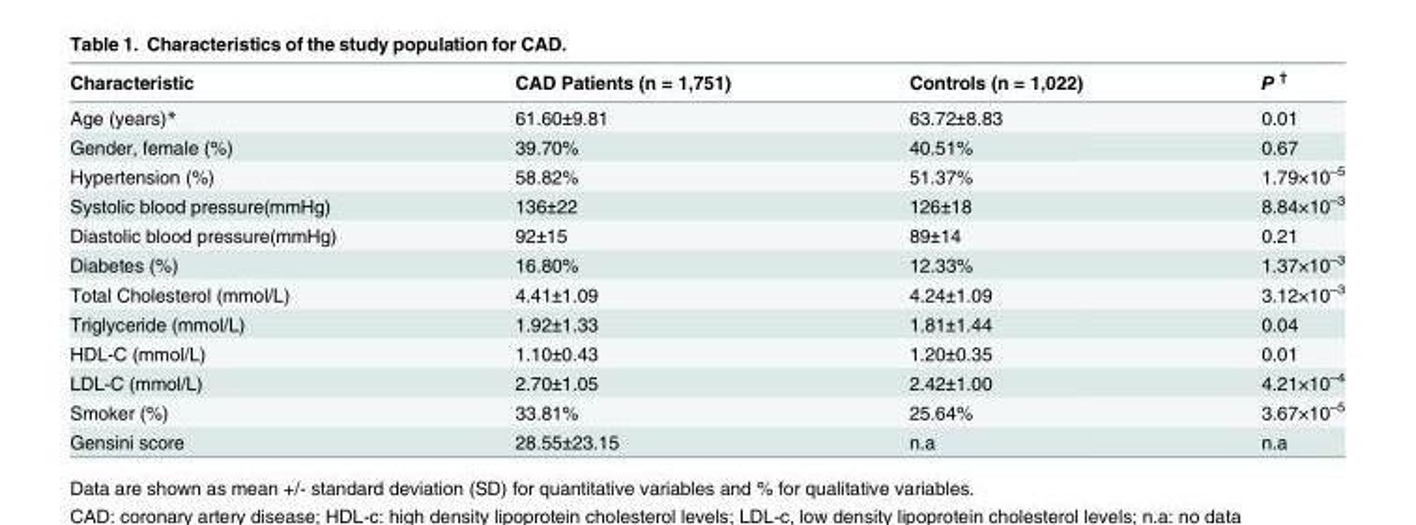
<table><thead><tr><td>Characteristic</td><td>CAD Patients (n = 1,751)</td><td>Controls (n = 1,022)</td><td>P <sup>†</sup></td></tr></thead><tbody><tr><td>Age (years)*</td><td>61.60±9.81</td><td>63.72±8.83</td><td>0.01</td></tr><tr><td>Gender, female (%)</td><td>39.70%</td><td>40.51%</td><td>0.67</td></tr><tr><td>Hypertension (%)</td><td>58.82%</td><td>51.37%</td><td>1.79×10<sup>–5</sup></td></tr><tr><td>Systolic blood pressure(mmHg)</td><td>136±22</td><td>126±18</td><td>8.84×10<sup>–3</sup></td></tr><tr><td>Diastolic blood pressure(mmHg)</td><td>92±15</td><td>89±14</td><td>0.21</td></tr><tr><td>Diabetes (%)</td><td>16.80%</td><td>12.33%</td><td>1.37×10<sup>–3</sup></td></tr><tr><td>Total Cholesterol (mmol/L)</td><td>4.41±1.09</td><td>4.24±1.09</td><td>3.12×10<sup>–3</sup></td></tr><tr><td>Triglyceride (mmol/L)</td><td>1.92±1.33</td><td>1.81±1.44</td><td>0.04</td></tr><tr><td>HDL-C (mmol/L)</td><td>1.10±0.43</td><td>1.20±0.35</td><td>0.01</td></tr><tr><td>LDL-C (mmol/L)</td><td>2.70±1.05</td><td>2.42±1.00</td><td>4.21×10<sup>–4</sup></td></tr><tr><td>Smoker (%)</td><td>33.81%</td><td>25.64%</td><td>3.67×10<sup>–5</sup></td></tr><tr><td>Gensini score</td><td>28.55±23.15</td><td>n.a</td><td>n.a</td></tr></tbody></table>